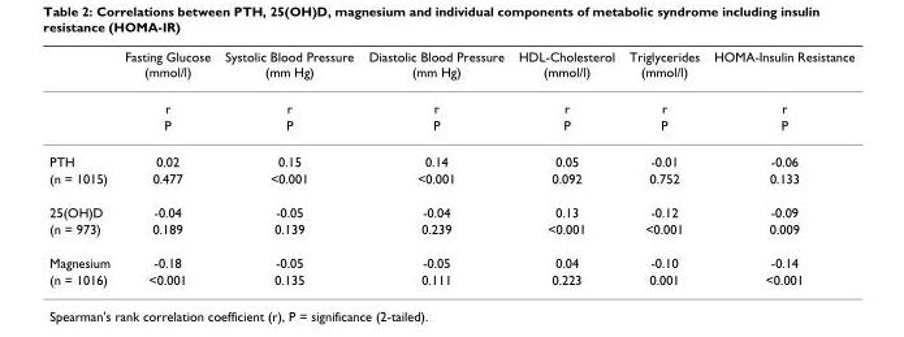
<table><thead><tr><td></td><td>Fasting Glucose (mmol/l)</td><td>Systolic Blood Pressure (mm Hg)</td><td>Diastolic Blood Pressure (mm Hg)</td><td>HDL-Cholesterol (mmol/l)</td><td>Triglycerides (mmol/l)</td><td>HOMA-Insulin Resistance</td></tr></thead><tbody><tr><td></td><td>r</td><td>r</td><td>r</td><td>r</td><td>r</td><td>r</td></tr><tr><td></td><td>P</td><td>P</td><td>P</td><td>P</td><td>P</td><td>P</td></tr><tr><td>PTH</td><td>0.02</td><td>0.15</td><td>0.14</td><td>0.05</td><td>-0.01</td><td>-0.06</td></tr><tr><td>(n = 1015)</td><td>0.477</td><td>&lt;0.001</td><td>&lt;0.001</td><td>0.092</td><td>0.752</td><td>0.133</td></tr><tr><td>25(OH)D</td><td>-0.04</td><td>-0.05</td><td>-0.04</td><td>0.13</td><td>-0.12</td><td>-0.09</td></tr><tr><td>(n = 973)</td><td>0.189</td><td>0.139</td><td>0.239</td><td>&lt;0.001</td><td>&lt;0.001</td><td>0.009</td></tr><tr><td>Magnesium</td><td>-0.18</td><td>-0.05</td><td>-0.05</td><td>0.04</td><td>-0.10</td><td>-0.14</td></tr><tr><td>(n = 1016)</td><td>&lt;0.001</td><td>0.135</td><td>0.111</td><td>0.223</td><td>0.001</td><td>&lt;0.001</td></tr></tbody></table>